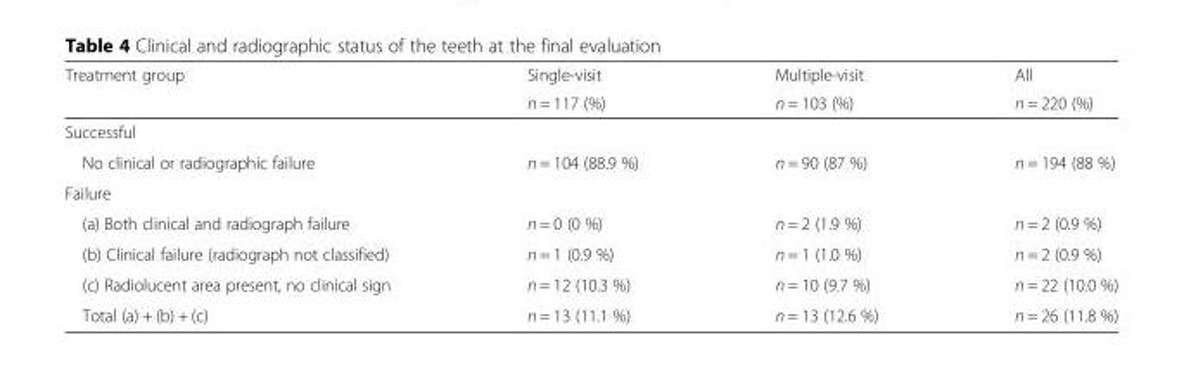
<table><thead><tr><td rowspan="2">Treatment group</td><td rowspan="2">Single-visit n = 117 (%)</td><td rowspan="2">Multiple-visit n = 103 (%)</td><td rowspan="2">All n = 220 (%)</td></tr><tr></tr></thead><tbody><tr><td colspan="4">Successful</td></tr><tr><td>No clinical or radiographic failure</td><td>n = 104 (88.9 %)</td><td>n = 90 (87 %)</td><td>n = 194 (88 %)</td></tr><tr><td colspan="4">Failure</td></tr><tr><td>(a) Both clinical and radiograph failure</td><td>n = 0 (0 %)</td><td>n = 2 (1.9 %)</td><td>n = 2 (0.9 %)</td></tr><tr><td>(b) Clinical failure (radiograph not classified)</td><td>n = 1 (0.9 %)</td><td>n = 1 (1.0 %)</td><td>n = 2 (0.9 %)</td></tr><tr><td>(c) Radiolucent area present, no clinical sign</td><td>n = 12 (10.3 %)</td><td>n = 10 (9.7 %)</td><td>n = 22 (10.0 %)</td></tr><tr><td>Total (a) + (b) + (c)</td><td>n = 13 (11.1 %)</td><td>n = 13 (12.6 %)</td><td>n = 26 (11.8 %)</td></tr></tbody></table>